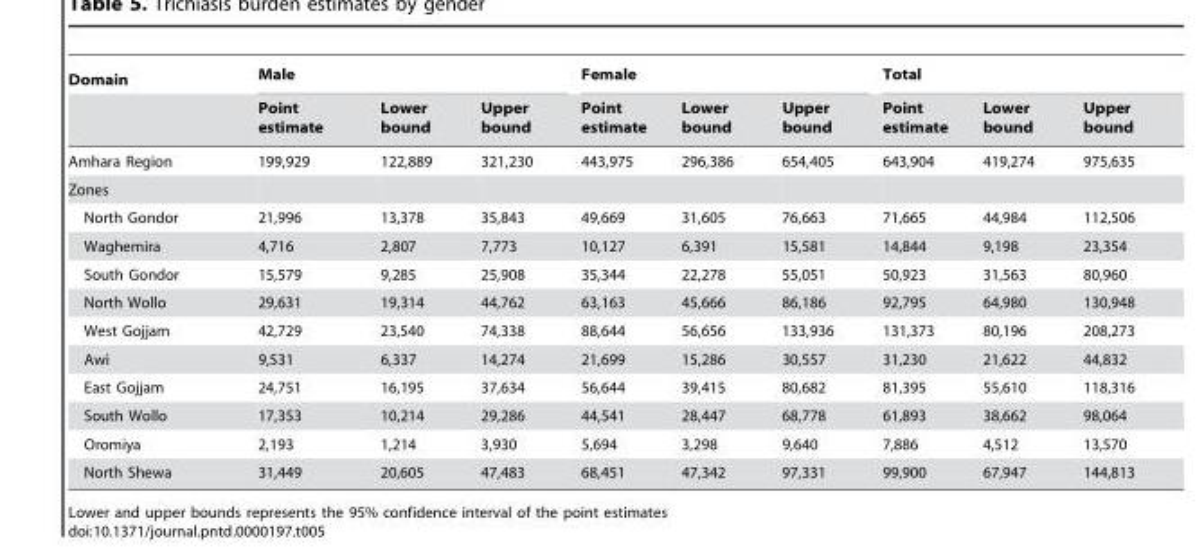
<table><thead><tr><td rowspan="2">Domain</td><td colspan="3">Male</td><td colspan="3">Female</td><td colspan="3">Total</td></tr><tr><td>Point estimate</td><td>Lower bound</td><td>Upper bound</td><td>Point estimate</td><td>Lower bound</td><td>Upper bound</td><td>Point estimate</td><td>Lower bound</td><td>Upper bound</td></tr></thead><tbody><tr><td>Amhara Region</td><td>199,929</td><td>122,889</td><td>321,230</td><td>443,975</td><td>296,386</td><td>654,405</td><td>643,904</td><td>419,274</td><td>975,635</td></tr><tr><td colspan="10">Zones</td></tr><tr><td>North Gondor</td><td>21,996</td><td>13,378</td><td>35,843</td><td>49,669</td><td>31,605</td><td>76,663</td><td>71,665</td><td>44,984</td><td>112,506</td></tr><tr><td>Waghemira</td><td>4,716</td><td>2,807</td><td>7,773</td><td>10,127</td><td>6,391</td><td>15,581</td><td>14,844</td><td>9,198</td><td>23,354</td></tr><tr><td>South Gondor</td><td>15,579</td><td>9,285</td><td>25,908</td><td>35,344</td><td>22,278</td><td>55,051</td><td>50,923</td><td>31,563</td><td>80,960</td></tr><tr><td>North Wollo</td><td>29,631</td><td>19,314</td><td>44,762</td><td>63,163</td><td>45,666</td><td>86,186</td><td>92,795</td><td>64,980</td><td>130,948</td></tr><tr><td>West Gojjam</td><td>42,729</td><td>23,540</td><td>74,338</td><td>88,644</td><td>56,656</td><td>133,936</td><td>131,373</td><td>80,196</td><td>208,273</td></tr><tr><td>Awi</td><td>9,531</td><td>6,337</td><td>14,274</td><td>21,699</td><td>15,286</td><td>30,557</td><td>31,230</td><td>21,622</td><td>44,832</td></tr><tr><td>East Gojjam</td><td>24,751</td><td>16,195</td><td>37,634</td><td>56,644</td><td>39,415</td><td>80,682</td><td>81,395</td><td>55,610</td><td>118,316</td></tr><tr><td>South Wollo</td><td>17,353</td><td>10,214</td><td>29,286</td><td>44,541</td><td>28,447</td><td>68,778</td><td>61,893</td><td>38,662</td><td>98,064</td></tr><tr><td>Oromiya</td><td>2,193</td><td>1,214</td><td>3,930</td><td>5,694</td><td>3,298</td><td>9,640</td><td>7,886</td><td>4,512</td><td>13,570</td></tr><tr><td>North Shewa</td><td>31,449</td><td>20,605</td><td>47,483</td><td>68,451</td><td>47,342</td><td>97,331</td><td>99,900</td><td>67,947</td><td>144,813</td></tr></tbody></table>